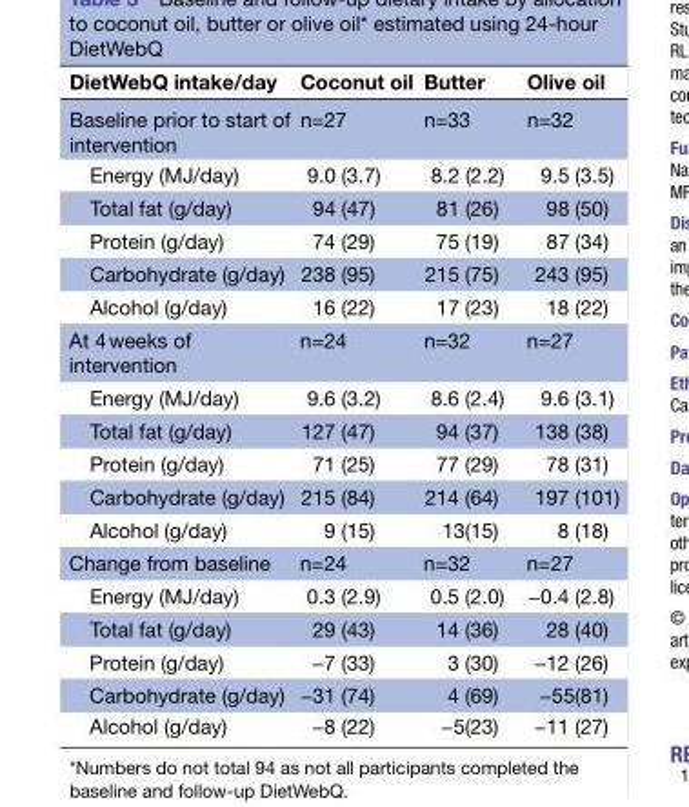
<table><thead><tr><td>DietWebQ intake/day</td><td>Coconut oil</td><td>Butter</td><td>Olive oil</td></tr></thead><tbody><tr><td>Baseline prior to start of intervention</td><td>n=27</td><td>n=33</td><td>n=32</td></tr><tr><td>Energy (MJ/day)</td><td>9.0 (3.7)</td><td>8.2 (2.2)</td><td>9.5 (3.5)</td></tr><tr><td>Total fat (g/day)</td><td>94 (47)</td><td>81 (26)</td><td>98 (50)</td></tr><tr><td>Protein (g/day)</td><td>74 (29)</td><td>75 (19)</td><td>87 (34)</td></tr><tr><td>Carbohydrate (g/day)</td><td>238 (95)</td><td>215 (75)</td><td>243 (95)</td></tr><tr><td>Alcohol (g/day)</td><td>16 (22)</td><td>17 (23)</td><td>18 (22)</td></tr><tr><td>At 4 weeks of intervention</td><td>n=24</td><td>n=32</td><td>n=27</td></tr><tr><td>Energy (MJ/day)</td><td>9.6 (3.2)</td><td>8.6 (2.4)</td><td>9.6 (3.1)</td></tr><tr><td>Total fat (g/day)</td><td>127 (47)</td><td>94 (37)</td><td>138 (38)</td></tr><tr><td>Protein (g/day)</td><td>71 (25)</td><td>77 (29)</td><td>78 (31)</td></tr><tr><td>Carbohydrate (g/day)</td><td>215 (84)</td><td>214 (64)</td><td>197 (101)</td></tr><tr><td>Alcohol (g/day)</td><td>9 (15)</td><td>13(15)</td><td>8 (18)</td></tr><tr><td>Change from baseline</td><td>n=24</td><td>n=32</td><td>n=27</td></tr><tr><td>Energy (MJ/day)</td><td>0.3 (2.9)</td><td>0.5 (2.0)</td><td>−0.4 (2.8)</td></tr><tr><td>Total fat (g/day)</td><td>29 (43)</td><td>14 (36)</td><td>28 (40)</td></tr><tr><td>Protein (g/day)</td><td>−7 (33)</td><td>3 (30)</td><td>−12 (26)</td></tr><tr><td>Carbohydrate (g/day)</td><td>−31 (74)</td><td>4 (69)</td><td>−55(81)</td></tr><tr><td>Alcohol (g/day)</td><td>−8 (22)</td><td>−5(23)</td><td>−11 (27)</td></tr></tbody></table>